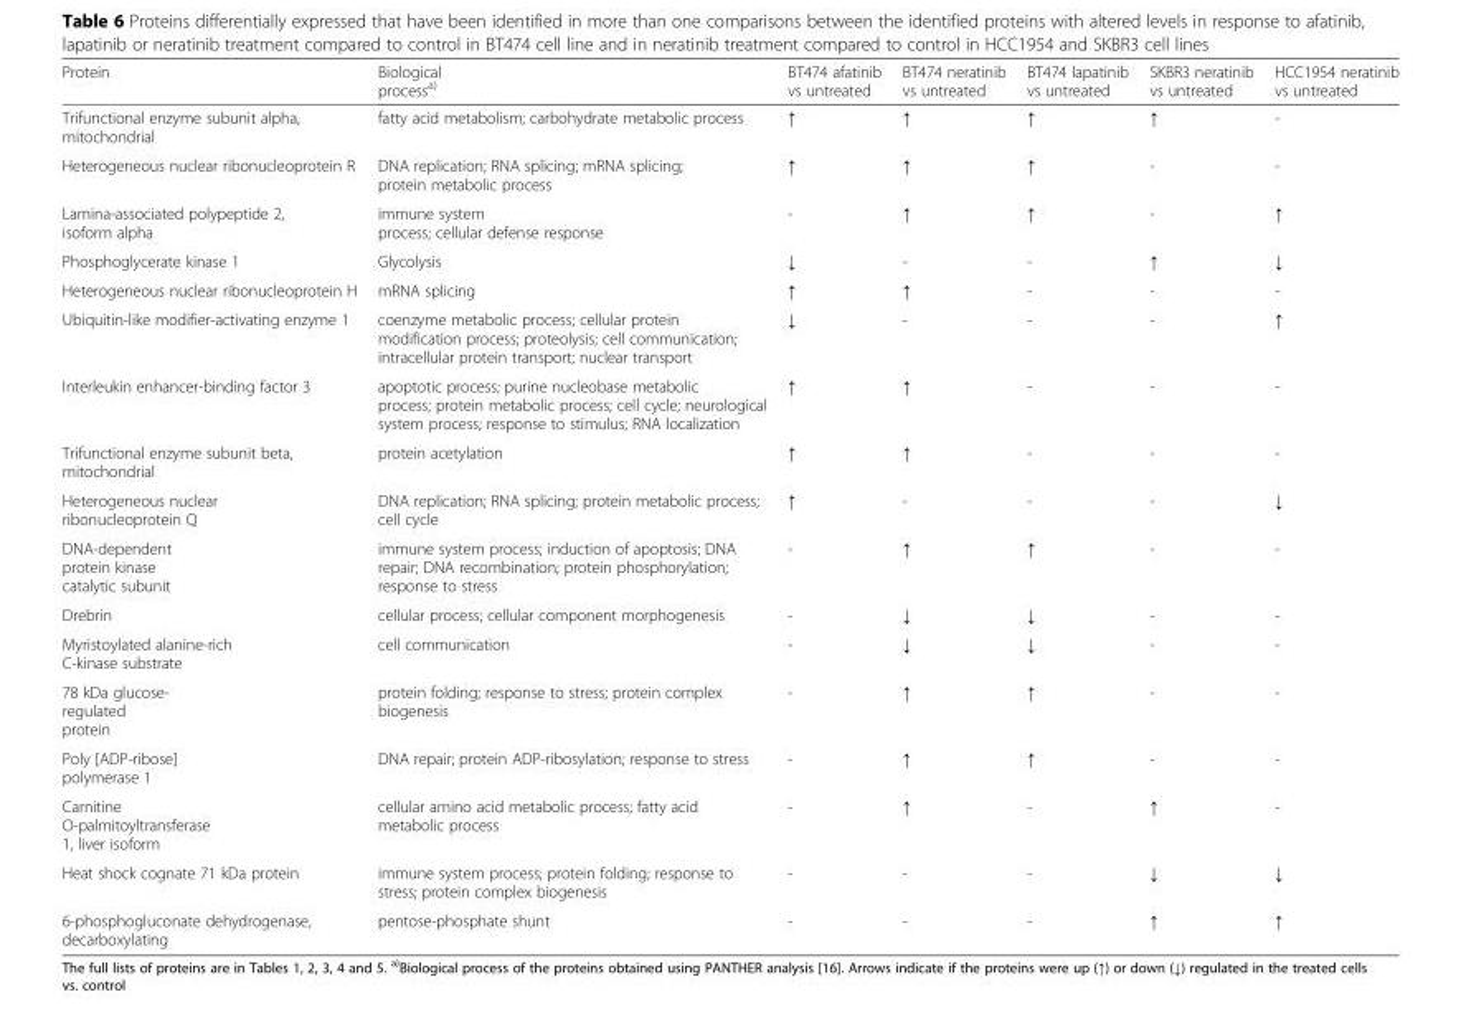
<table><thead><tr><td>Protein</td><td>Biological process<sup>a)</sup></td><td>BT474 afatinib vs untreated</td><td>BT474 neratinib vs untreated</td><td>BT474 lapatinib vs untreated</td><td>SKBR3 neratinib vs untreated</td><td>HCC1954 neratinib vs untreated</td></tr></thead><tbody><tr><td>Trifunctional enzyme subunit alpha, mitochondrial</td><td>fatty acid metabolism; carbohydrate metabolic process</td><td>↑</td><td>↑</td><td>↑</td><td>↑</td><td>-</td></tr><tr><td>Heterogeneous nuclear ribonucleoprotein R</td><td>DNA replication; RNA splicing; mRNA splicing; protein metabolic process</td><td>↑</td><td>↑</td><td>↑</td><td>-</td><td>-</td></tr><tr><td>Lamina-associated polypeptide 2, isoform alpha</td><td>immune system process; cellular defense response</td><td>-</td><td>↑</td><td>↑</td><td>-</td><td>↑</td></tr><tr><td>Phosphoglycerate kinase 1</td><td>Glycolysis</td><td>↓</td><td>-</td><td>-</td><td>↑</td><td>↓</td></tr><tr><td>Heterogeneous nuclear ribonucleoprotein H</td><td>mRNA splicing</td><td>↑</td><td>↑</td><td>-</td><td>-</td><td>-</td></tr><tr><td>Ubiquitin-like modifier-activating enzyme 1</td><td>coenzyme metabolic process; cellular protein modification process; proteolysis; cell communication; intracellular protein transport; nuclear transport</td><td>↓</td><td>-</td><td>-</td><td>-</td><td>↑</td></tr><tr><td>Interleukin enhancer-binding factor 3</td><td>apoptotic process; purine nucleobase metabolic process; protein metabolic process; cell cycle; neurological system process; response to stimulus; RNA localization</td><td>↑</td><td>↑</td><td>-</td><td>-</td><td>-</td></tr><tr><td>Trifunctional enzyme subunit beta, mitochondrial</td><td>protein acetylation</td><td>↑</td><td>↑</td><td>-</td><td>-</td><td>-</td></tr><tr><td>Heterogeneous nuclear ribonucleoprotein Q</td><td>DNA replication; RNA splicing; protein metabolic process; cell cycle</td><td>↑</td><td>-</td><td>-</td><td>-</td><td>↓</td></tr><tr><td>DNA-dependent protein kinase catalytic subunit</td><td>immune system process; induction of apoptosis; DNA repair; DNA recombination; protein phosphorylation; response to stress</td><td>-</td><td>↑</td><td>↑</td><td>-</td><td>-</td></tr><tr><td>Drebrin</td><td>cellular process; cellular component morphogenesis</td><td>-</td><td>↓</td><td>↓</td><td>-</td><td>-</td></tr><tr><td>Myristoylated alanine-rich C-kinase substrate</td><td>cell communication</td><td>-</td><td>↓</td><td>↓</td><td>-</td><td>-</td></tr><tr><td>78 kDa glucose- regulated protein</td><td>protein folding; response to stress; protein complex biogenesis</td><td>-</td><td>↑</td><td>↑</td><td>-</td><td>-</td></tr><tr><td>Poly [ADP-ribose] polymerase 1</td><td>DNA repair; protein ADP-ribosylation; response to stress</td><td>-</td><td>↑</td><td>↑</td><td>-</td><td>-</td></tr><tr><td>Carnitine O-palmitoyltransferase 1, liver isoform</td><td>cellular amino acid metabolic process; fatty acid metabolic process</td><td>-</td><td>↑</td><td>-</td><td>↑</td><td>-</td></tr><tr><td>Heat shock cognate 71 kDa protein</td><td>immune system process; protein folding; response to stress; protein complex biogenesis</td><td>-</td><td>-</td><td>-</td><td>↓</td><td>↓</td></tr><tr><td>6-phosphogluconate dehydrogenase, decarboxylating</td><td>pentose-phosphate shunt</td><td>-</td><td>-</td><td>-</td><td>↑</td><td>↑</td></tr></tbody></table>